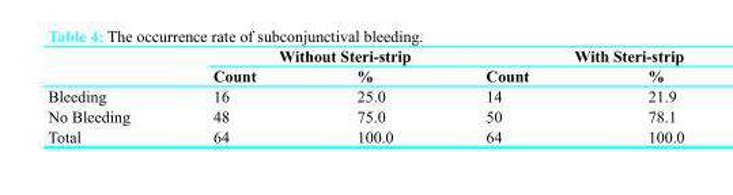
<table><thead><tr><td rowspan="2"></td><td colspan="2">Without Steri-strip</td><td colspan="2">With Steri-strip</td></tr><tr><td>Count</td><td>%</td><td>Count</td><td>%</td></tr></thead><tbody><tr><td>Bleeding</td><td>16</td><td>25.0</td><td>14</td><td>21.9</td></tr><tr><td>No Bleeding</td><td>48</td><td>75.0</td><td>50</td><td>78.1</td></tr><tr><td>Total</td><td>64</td><td>100.0</td><td>64</td><td>100.0</td></tr></tbody></table>